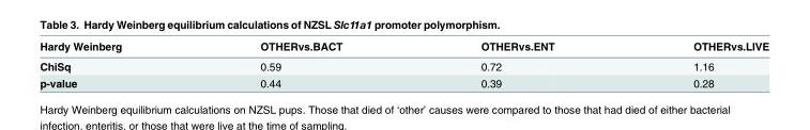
<table><thead><tr><td>Hardy Weinberg</td><td>OTHERvs.BACT</td><td>OTHERvs.ENT</td><td>OTHERvs.LIVE</td></tr></thead><tbody><tr><td>ChiSq</td><td>0.59</td><td>0.72</td><td>1.16</td></tr><tr><td>p-value</td><td>0.44</td><td>0.39</td><td>0.28</td></tr></tbody></table>